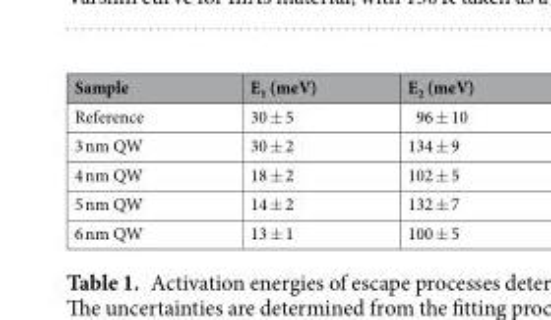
<table><thead><tr><td>Sample</td><td>E<sub>1</sub> (meV)</td><td>E<sub>2</sub> (meV)</td></tr></thead><tbody><tr><td>Reference</td><td>30 ± 5</td><td>96 ± 10</td></tr><tr><td>3 nm QW</td><td>30 ± 2</td><td>134 ± 9</td></tr><tr><td>4 nm QW</td><td>18 ± 2</td><td>102 ± 5</td></tr><tr><td>5 nm QW</td><td>14 ± 2</td><td>132 ± 7</td></tr><tr><td>6 nm QW</td><td>13 ± 1</td><td>100 ± 5</td></tr></tbody></table>